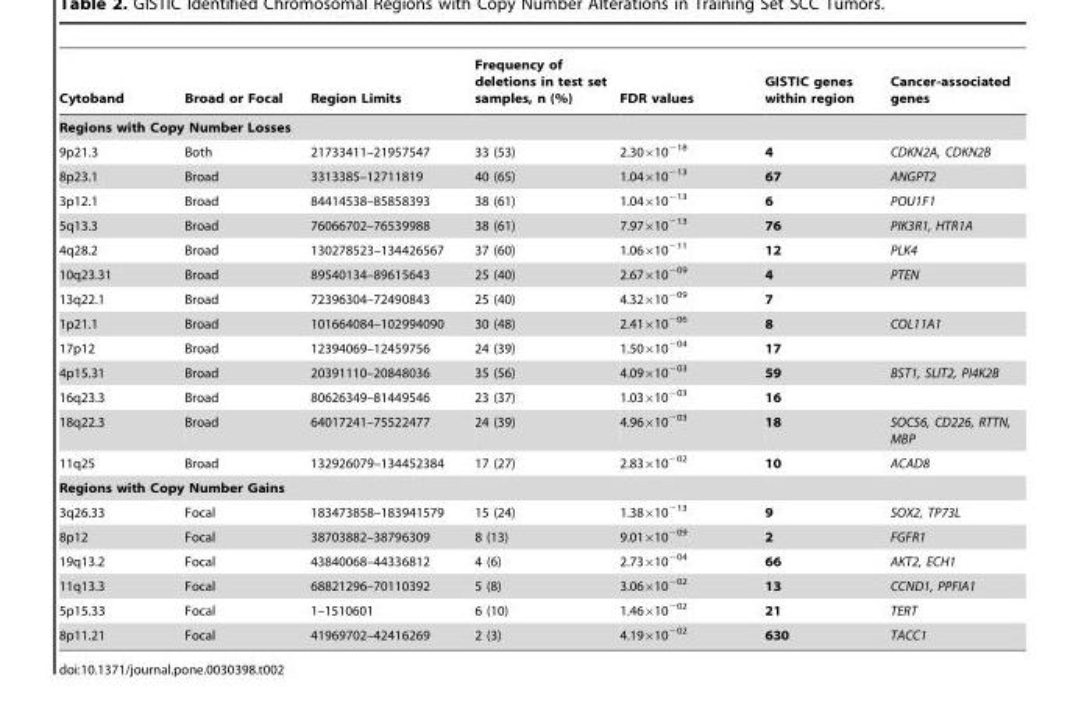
<table><thead><tr><td>Cytoband</td><td>Broad or Focal</td><td>Region Limits</td><td>Frequency of deletions in test set samples, n (%)</td><td>FDR values</td><td>GISTIC genes within region</td><td>Cancer-associated genes</td></tr></thead><tbody><tr><td colspan="7">Regions with Copy Number Losses</td></tr><tr><td>9p21.3</td><td>Both</td><td>21733411–21957547</td><td>33 (53)</td><td>2.30×10<sup>−18</sup></td><td>4</td><td>CDKN2A, CDKN2B</td></tr><tr><td>8p23.1</td><td>Broad</td><td>3313385–12711819</td><td>40 (65)</td><td>1.04×10<sup>−13</sup></td><td>67</td><td>ANGPT2</td></tr><tr><td>3p12.1</td><td>Broad</td><td>84414538–85858393</td><td>38 (61)</td><td>1.04×10<sup>−13</sup></td><td>6</td><td>POU1F1</td></tr><tr><td>5q13.3</td><td>Broad</td><td>76066702–76539988</td><td>38 (61)</td><td>7.97×10<sup>−13</sup></td><td>76</td><td>PIK3R1, HTR1A</td></tr><tr><td>4q28.2</td><td>Broad</td><td>130278523–134426567</td><td>37 (60)</td><td>1.06×10<sup>−11</sup></td><td>12</td><td>PLK4</td></tr><tr><td>10q23.31</td><td>Broad</td><td>89540134–89615643</td><td>25 (40)</td><td>2.67×10<sup>−09</sup></td><td>4</td><td>PTEN</td></tr><tr><td>13q22.1</td><td>Broad</td><td>72396304–72490843</td><td>25 (40)</td><td>4.32×10<sup>−09</sup></td><td>7</td><td></td></tr><tr><td>1p21.1</td><td>Broad</td><td>101664084–102994090</td><td>30 (48)</td><td>2.41×10<sup>−06</sup></td><td>8</td><td>COL11A1</td></tr><tr><td>17p12</td><td>Broad</td><td>12394069–12459756</td><td>24 (39)</td><td>1.50×10<sup>−04</sup></td><td>17</td><td></td></tr><tr><td>4p15.31</td><td>Broad</td><td>20391110–20848036</td><td>35 (56)</td><td>4.09×10<sup>−03</sup></td><td>59</td><td>BST1, SLIT2, PI4K2B</td></tr><tr><td>16q23.3</td><td>Broad</td><td>80626349–81449546</td><td>23 (37)</td><td>1.03×10<sup>−03</sup></td><td>16</td><td></td></tr><tr><td>18q22.3</td><td>Broad</td><td>64017241–75522477</td><td>24 (39)</td><td>4.96×10<sup>−03</sup></td><td>18</td><td>SOCS6, CD226, RTTN, MBP</td></tr><tr><td>11q25</td><td>Broad</td><td>132926079–134452384</td><td>17 (27)</td><td>2.83×10<sup>−02</sup></td><td>10</td><td>ACAD8</td></tr><tr><td colspan="7">Regions with Copy Number Gains</td></tr><tr><td>3q26.33</td><td>Focal</td><td>183473858–183941579</td><td>15 (24)</td><td>1.38×10<sup>−13</sup></td><td>9</td><td>SOX2, TP73L</td></tr><tr><td>8p12</td><td>Focal</td><td>38703882–38796309</td><td>8 (13)</td><td>9.01×10<sup>−09</sup></td><td>2</td><td>FGFR1</td></tr><tr><td>19q13.2</td><td>Focal</td><td>43840068–44336812</td><td>4 (6)</td><td>2.73×10<sup>−04</sup></td><td>66</td><td>AKT2, ECH1</td></tr><tr><td>11q13.3</td><td>Focal</td><td>68821296–70110392</td><td>5 (8)</td><td>3.06×10<sup>−02</sup></td><td>13</td><td>CCND1, PPFIA1</td></tr><tr><td>5p15.33</td><td>Focal</td><td>1–1510601</td><td>6 (10)</td><td>1.46×10<sup>−02</sup></td><td>21</td><td>TERT</td></tr><tr><td>8p11.21</td><td>Focal</td><td>41969702–42416269</td><td>2 (3)</td><td>4.19×10<sup>−02</sup></td><td>630</td><td>TACC1</td></tr></tbody></table>